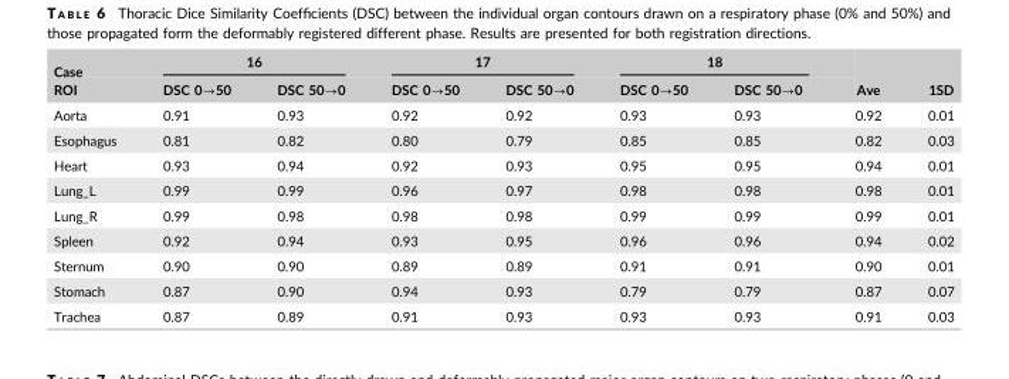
<table><thead><tr><td rowspan="2">Case ROI</td><td colspan="2">16</td><td colspan="2">17</td><td colspan="2">18</td><td rowspan="2">Ave</td><td rowspan="2">1SD</td></tr><tr><td>DSC 0→50</td><td>DSC 50→0</td><td>DSC 0→50</td><td>DSC 50→0</td><td>DSC 0→50</td><td>DSC 50→0</td></tr></thead><tbody><tr><td>Aorta</td><td>0.91</td><td>0.93</td><td>0.92</td><td>0.92</td><td>0.93</td><td>0.93</td><td>0.92</td><td>0.01</td></tr><tr><td>Esophagus</td><td>0.81</td><td>0.82</td><td>0.80</td><td>0.79</td><td>0.85</td><td>0.85</td><td>0.82</td><td>0.03</td></tr><tr><td>Heart</td><td>0.93</td><td>0.94</td><td>0.92</td><td>0.93</td><td>0.95</td><td>0.95</td><td>0.94</td><td>0.01</td></tr><tr><td>Lung_L</td><td>0.99</td><td>0.99</td><td>0.96</td><td>0.97</td><td>0.98</td><td>0.98</td><td>0.98</td><td>0.01</td></tr><tr><td>Lung_R</td><td>0.99</td><td>0.98</td><td>0.98</td><td>0.98</td><td>0.99</td><td>0.99</td><td>0.99</td><td>0.01</td></tr><tr><td>Spleen</td><td>0.92</td><td>0.94</td><td>0.93</td><td>0.95</td><td>0.96</td><td>0.96</td><td>0.94</td><td>0.02</td></tr><tr><td>Sternum</td><td>0.90</td><td>0.90</td><td>0.89</td><td>0.89</td><td>0.91</td><td>0.91</td><td>0.90</td><td>0.01</td></tr><tr><td>Stomach</td><td>0.87</td><td>0.90</td><td>0.94</td><td>0.93</td><td>0.79</td><td>0.79</td><td>0.87</td><td>0.07</td></tr><tr><td>Trachea</td><td>0.87</td><td>0.89</td><td>0.91</td><td>0.93</td><td>0.93</td><td>0.93</td><td>0.91</td><td>0.03</td></tr></tbody></table>